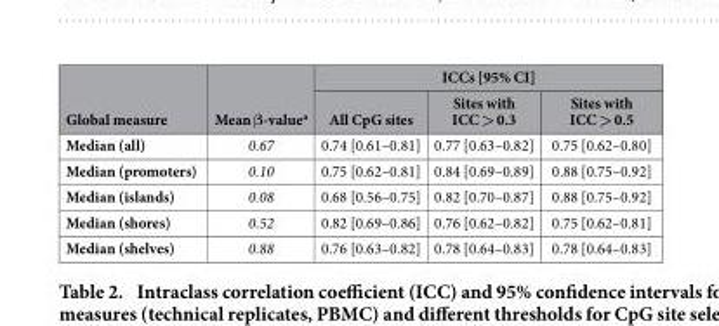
<table><thead><tr><td rowspan="2">Global measure</td><td rowspan="2">Mean β-value<sup>a</sup></td><td colspan="3">ICCs [95% CI]</td></tr><tr><td>All CpG sites</td><td>Sites with ICC &gt; 0.3</td><td>Sites with ICC &gt; 0.5</td></tr></thead><tbody><tr><td>Median (all)</td><td>0.67</td><td>0.74 [0.61–0.81]</td><td>0.77 [0.63–0.82]</td><td>0.75 [0.62–0.80]</td></tr><tr><td>Median (promoters)</td><td>0.10</td><td>0.75 [0.62–0.81]</td><td>0.84 [0.69–0.89]</td><td>0.88 [0.75–0.92]</td></tr><tr><td>Median (islands)</td><td>0.08</td><td>0.68 [0.56–0.75]</td><td>0.82 [0.70–0.87]</td><td>0.88 [0.75–0.92]</td></tr><tr><td>Median (shores)</td><td>0.52</td><td>0.82 [0.69–0.86]</td><td>0.76 [0.62–0.82]</td><td>0.75 [0.62–0.81]</td></tr><tr><td>Median (shelves)</td><td>0.88</td><td>0.76 [0.63–0.82]</td><td>0.78 [0.64–0.83]</td><td>0.78 [0.64–0.83]</td></tr></tbody></table>